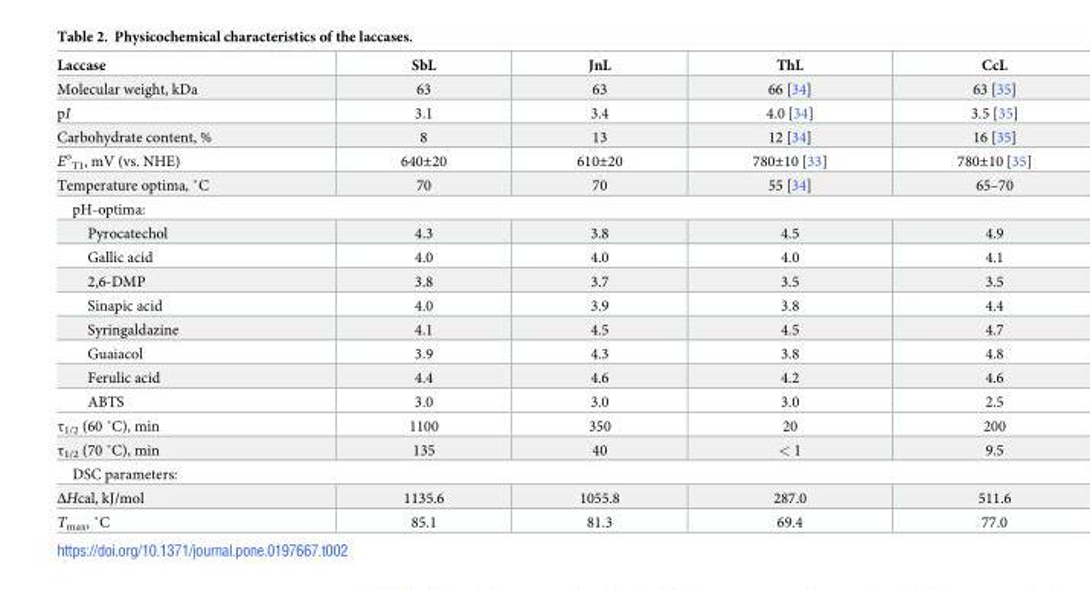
<table><thead><tr><td>Laccase</td><td>SbL</td><td>JnL</td><td>ThL</td><td>CcL</td></tr></thead><tbody><tr><td>Molecular weight, kDa</td><td>63</td><td>63</td><td>66 [34]</td><td>63 [35]</td></tr><tr><td>pI</td><td>3.1</td><td>3.4</td><td>4.0 [34]</td><td>3.5 [35]</td></tr><tr><td>Carbohydrate content, %</td><td>8</td><td>13</td><td>12 [34]</td><td>16 [35]</td></tr><tr><td>E<sup>o</sup> <sub>T1</sub>, mV (vs. NHE)</td><td>640±20</td><td>610±20</td><td>780±10 [33]</td><td>780±10 [35]</td></tr><tr><td>Temperature optima, ˚C</td><td>70</td><td>70</td><td>55 [34]</td><td>65–70</td></tr><tr><td colspan="5">pH-optima:</td></tr><tr><td>Pyrocatechol</td><td>4.3</td><td>3.8</td><td>4.5</td><td>4.9</td></tr><tr><td>Gallic acid</td><td>4.0</td><td>4.0</td><td>4.0</td><td>4.1</td></tr><tr><td>2,6-DMP</td><td>3.8</td><td>3.7</td><td>3.5</td><td>3.5</td></tr><tr><td>Sinapic acid</td><td>4.0</td><td>3.9</td><td>3.8</td><td>4.4</td></tr><tr><td>Syringaldazine</td><td>4.1</td><td>4.5</td><td>4.5</td><td>4.7</td></tr><tr><td>Guaiacol</td><td>3.9</td><td>4.3</td><td>3.8</td><td>4.8</td></tr><tr><td>Ferulic acid</td><td>4.4</td><td>4.6</td><td>4.2</td><td>4.6</td></tr><tr><td>ABTS</td><td>3.0</td><td>3.0</td><td>3.0</td><td>2.5</td></tr><tr><td>τ1/2 (60 ˚C), min</td><td>1100</td><td>350</td><td>20</td><td>200</td></tr><tr><td>τ1/2 (70 ˚C), min</td><td>135</td><td>40</td><td>&lt; 1</td><td>9.5</td></tr><tr><td colspan="5">DSC parameters:</td></tr><tr><td>ΔHcal, kJ/mol</td><td>1135.6</td><td>1055.8</td><td>287.0</td><td>511.6</td></tr><tr><td>Tmax, ˚C</td><td>85.1</td><td>81.3</td><td>69.4</td><td>77.0</td></tr></tbody></table>